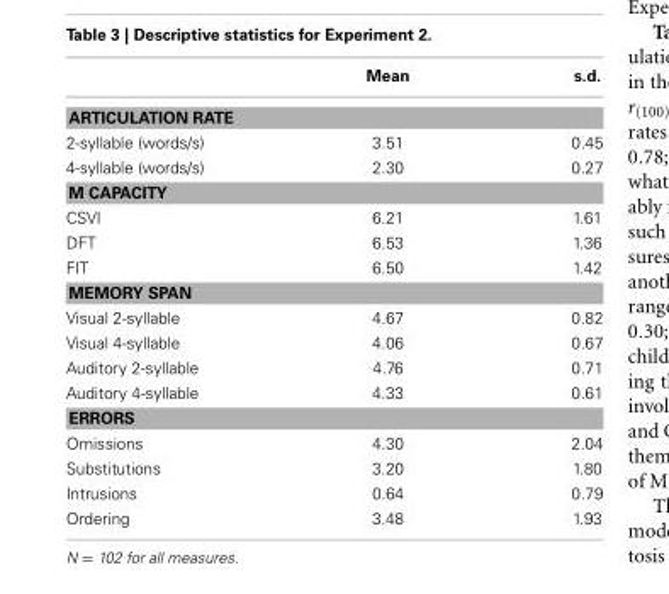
<table><thead><tr><td></td><td>Mean</td><td>s.d.</td></tr></thead><tbody><tr><td colspan="3">ARTICULATION RATE</td></tr><tr><td>2-syllable (words/s)</td><td>3.51</td><td>0.45</td></tr><tr><td>4-syllable (words/s)</td><td>2.30</td><td>0.27</td></tr><tr><td colspan="3">M CAPACITY</td></tr><tr><td>CSVI</td><td>6.21</td><td>1.61</td></tr><tr><td>DFT</td><td>6.53</td><td>1.36</td></tr><tr><td>FIT</td><td>6.50</td><td>1.42</td></tr><tr><td colspan="3">MEMORY SPAN</td></tr><tr><td>Visual 2-syllable</td><td>4.67</td><td>0.82</td></tr><tr><td>Visual 4-syllable</td><td>4.06</td><td>0.67</td></tr><tr><td>Auditory 2-syllable</td><td>4.76</td><td>0.71</td></tr><tr><td>Auditory 4-syllable</td><td>4.33</td><td>0.61</td></tr><tr><td colspan="3">ERRORS</td></tr><tr><td>Omissions</td><td>4.30</td><td>2.04</td></tr><tr><td>Substitutions</td><td>3.20</td><td>1.80</td></tr><tr><td>Intrusions</td><td>0.64</td><td>0.79</td></tr><tr><td>Ordering</td><td>3.48</td><td>1.93</td></tr></tbody></table>